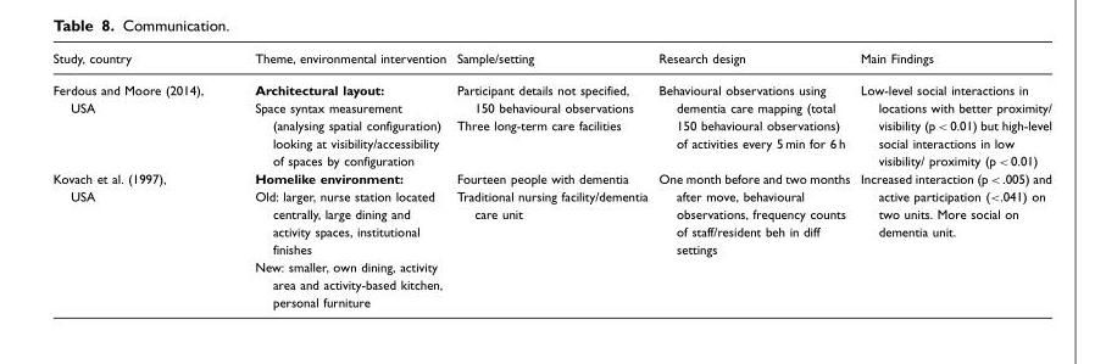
<table><thead><tr><td>Study, country</td><td>Theme, environmental intervention</td><td>Sample/setting</td><td>Research design</td><td>Main Findings</td></tr></thead><tbody><tr><td>Ferdous and Moore (2014), USA</td><td>Architectural layout: Space syntax measurement (analysing spatial configuration) looking at visibility/accessibility of spaces by configuration</td><td>Participant details not specified, 150 behavioural observations Three long-term care facilities</td><td>Behavioural observations using dementia care mapping (total 150 behavioural observations) of activities every 5 min for 6 h</td><td>Low-level social interactions in locations with better proximity/ visibility (p &lt; 0.01) but high-level social interactions in low visibility/ proximity (p &lt; 0.01)</td></tr><tr><td>Kovach et al. (1997), USA</td><td>Homelike environment: Old: larger, nurse station located centrally, large dining and activity spaces, institutional finishes New: smaller, own dining, activity area and activity-based kitchen, personal furniture</td><td>Fourteen people with dementia Traditional nursing facility/dementia care unit</td><td>One month before and two months after move, behavioural observations, frequency counts of staff/resident beh in diff settings</td><td>Increased interaction (p &lt;.005) and active participation (&lt;.041) on two units. More social on dementia unit.</td></tr></tbody></table>